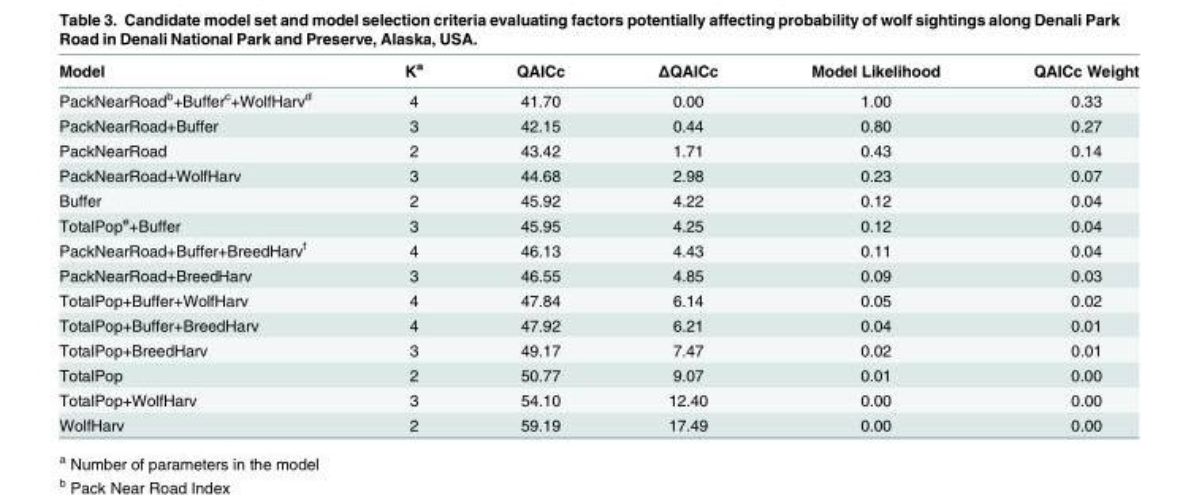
<table><thead><tr><td>Model</td><td>K<sup>a</sup></td><td>QAICc</td><td>ΔQAICc</td><td>Model Likelihood</td><td>QAICc Weight</td></tr></thead><tbody><tr><td>PackNearRoad<sup>b</sup>+Buffer<sup>c</sup>+WolfHarv<sup>d</sup></td><td>4</td><td>41.70</td><td>0.00</td><td>1.00</td><td>0.33</td></tr><tr><td>PackNearRoad+Buffer</td><td>3</td><td>42.15</td><td>0.44</td><td>0.80</td><td>0.27</td></tr><tr><td>PackNearRoad</td><td>2</td><td>43.42</td><td>1.71</td><td>0.43</td><td>0.14</td></tr><tr><td>PackNearRoad+WolfHarv</td><td>3</td><td>44.68</td><td>2.98</td><td>0.23</td><td>0.07</td></tr><tr><td>Buffer</td><td>2</td><td>45.92</td><td>4.22</td><td>0.12</td><td>0.04</td></tr><tr><td>TotalPop<sup>e</sup>+Buffer</td><td>3</td><td>45.95</td><td>4.25</td><td>0.12</td><td>0.04</td></tr><tr><td>PackNearRoad+Buffer+BreedHarv<sup>f</sup></td><td>4</td><td>46.13</td><td>4.43</td><td>0.11</td><td>0.04</td></tr><tr><td>PackNearRoad+BreedHarv</td><td>3</td><td>46.55</td><td>4.85</td><td>0.09</td><td>0.03</td></tr><tr><td>TotalPop+Buffer+WolfHarv</td><td>4</td><td>47.84</td><td>6.14</td><td>0.05</td><td>0.02</td></tr><tr><td>TotalPop+Buffer+BreedHarv</td><td>4</td><td>47.92</td><td>6.21</td><td>0.04</td><td>0.01</td></tr><tr><td>TotalPop+BreedHarv</td><td>3</td><td>49.17</td><td>7.47</td><td>0.02</td><td>0.01</td></tr><tr><td>TotalPop</td><td>2</td><td>50.77</td><td>9.07</td><td>0.01</td><td>0.00</td></tr><tr><td>TotalPop+WolfHarv</td><td>3</td><td>54.10</td><td>12.40</td><td>0.00</td><td>0.00</td></tr><tr><td>WolfHarv</td><td>2</td><td>59.19</td><td>17.49</td><td>0.00</td><td>0.00</td></tr></tbody></table>